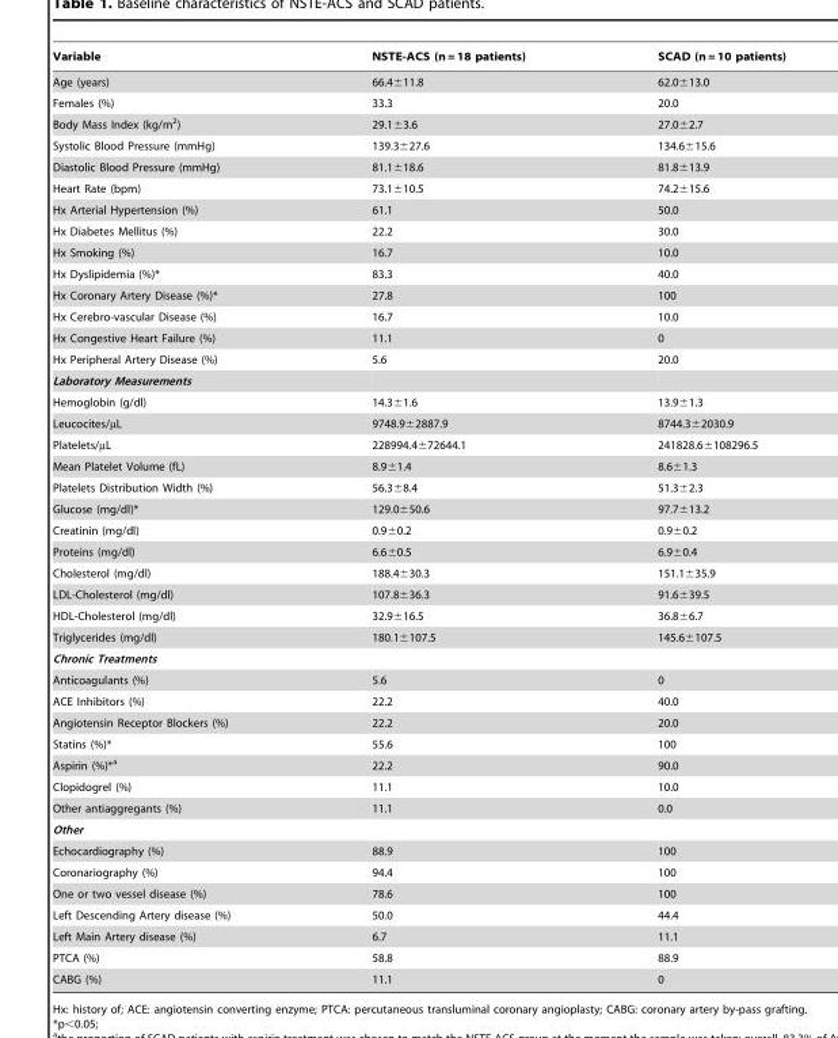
<table><thead><tr><td>Variable</td><td>NSTE-ACS (n = 18 patients)</td><td>SCAD (n = 10 patients)</td></tr></thead><tbody><tr><td>Age (years)</td><td>66.4±11.8</td><td>62.0±13.0</td></tr><tr><td>Females (%)</td><td>33.3</td><td>20.0</td></tr><tr><td>Body Mass Index (kg/m<sup>2</sup>)</td><td>29.1±3.6</td><td>27.0±2.7</td></tr><tr><td>Systolic Blood Pressure (mmHg)</td><td>139.3±27.6</td><td>134.6±15.6</td></tr><tr><td>Diastolic Blood Pressure (mmHg)</td><td>81.1±18.6</td><td>81.8±13.9</td></tr><tr><td>Heart Rate (bpm)</td><td>73.1±10.5</td><td>74.2±15.6</td></tr><tr><td>Hx Arterial Hypertension (%)</td><td>61.1</td><td>50.0</td></tr><tr><td>Hx Diabetes Mellitus (%)</td><td>22.2</td><td>30.0</td></tr><tr><td>Hx Smoking (%)</td><td>16.7</td><td>10.0</td></tr><tr><td>Hx Dyslipidemia (%)*</td><td>83.3</td><td>40.0</td></tr><tr><td>Hx Coronary Artery Disease (%)*</td><td>27.8</td><td>100</td></tr><tr><td>Hx Cerebro-vascular Disease (%)</td><td>16.7</td><td>10.0</td></tr><tr><td>Hx Congestive Heart Failure (%)</td><td>11.1</td><td>0</td></tr><tr><td>Hx Peripheral Artery Disease (%)</td><td>5.6</td><td>20.0</td></tr><tr><td colspan="3">Laboratory Measurements</td></tr><tr><td>Hemoglobin (g/dl)</td><td>14.3±1.6</td><td>13.9±1.3</td></tr><tr><td>Leucocites/µL</td><td>9748.9±2887.9</td><td>8744.3±2030.9</td></tr><tr><td>Platelets/µL</td><td>228994.4±72644.1</td><td>241828.6±108296.5</td></tr><tr><td>Mean Platelet Volume (fL)</td><td>8.9±1.4</td><td>8.6±1.3</td></tr><tr><td>Platelets Distribution Width (%)</td><td>56.3±8.4</td><td>51.3±2.3</td></tr><tr><td>Glucose (mg/dl)*</td><td>129.0±50.6</td><td>97.7±13.2</td></tr><tr><td>Creatinin (mg/dl)</td><td>0.9±0.2</td><td>0.9±0.2</td></tr><tr><td>Proteins (mg/dl)</td><td>6.6±0.5</td><td>6.9±0.4</td></tr><tr><td>Cholesterol (mg/dl)</td><td>188.4±30.3</td><td>151.1±35.9</td></tr><tr><td>LDL-Cholesterol (mg/dl)</td><td>107.8±36.3</td><td>91.6±39.5</td></tr><tr><td>HDL-Cholesterol (mg/dl)</td><td>32.9±16.5</td><td>36.8±6.7</td></tr><tr><td>Triglycerides (mg/dl)</td><td>180.1±107.5</td><td>145.6±107.5</td></tr><tr><td colspan="3">Chronic Treatments</td></tr><tr><td>Anticoagulants (%)</td><td>5.6</td><td>0</td></tr><tr><td>ACE Inhibitors (%)</td><td>22.2</td><td>40.0</td></tr><tr><td>Angiotensin Receptor Blockers (%)</td><td>22.2</td><td>20.0</td></tr><tr><td>Statins (%)*</td><td>55.6</td><td>100</td></tr><tr><td>Aspirin (%)*a</td><td>22.2</td><td>90.0</td></tr><tr><td>Clopidogrel (%)</td><td>11.1</td><td>10.0</td></tr><tr><td>Other antiaggregants (%)</td><td>11.1</td><td>0.0</td></tr><tr><td colspan="3">Other</td></tr><tr><td>Echocardiography (%)</td><td>88.9</td><td>100</td></tr><tr><td>Coronariography (%)</td><td>94.4</td><td>100</td></tr><tr><td>One or two vessel disease (%)</td><td>78.6</td><td>100</td></tr><tr><td>Left Descending Artery disease (%)</td><td>50.0</td><td>44.4</td></tr><tr><td>Left Main Artery disease (%)</td><td>6.7</td><td>11.1</td></tr><tr><td>PTCA (%)</td><td>58.8</td><td>88.9</td></tr><tr><td>CABG (%)</td><td>11.1</td><td>0</td></tr></tbody></table>